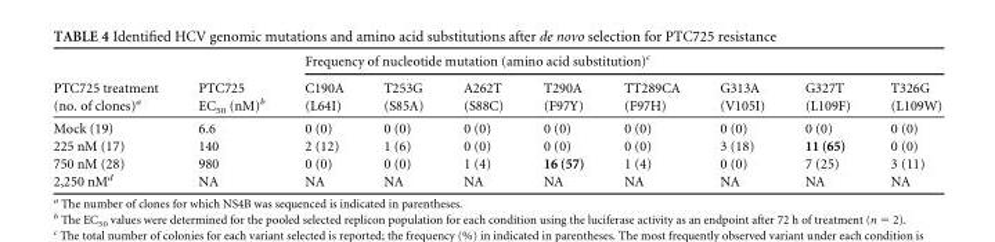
<table><thead><tr><td rowspan="2">PTC725 treatment (no. of clones)<sup>a</sup></td><td rowspan="2">PTC725 EC<sub>50</sub> (nM)<sup>b</sup></td><td colspan="8">Frequency of nucleotide mutation (amino acid substitution)<sup>c</sup></td></tr><tr><td>C190A (L64I)</td><td>T253G (S85A)</td><td>A262T (S88C)</td><td>T290A (F97Y)</td><td>TT289CA (F97H)</td><td>G313A (V105I)</td><td>G327T (L109F)</td><td>T326G (L109W)</td></tr></thead><tbody><tr><td>Mock (19)</td><td>6.6</td><td>0 (0)</td><td>0 (0)</td><td>0 (0)</td><td>0 (0)</td><td>0 (0)</td><td>0 (0)</td><td>0 (0)</td><td>0 (0)</td></tr><tr><td>225 nM (17)</td><td>140</td><td>2 (12)</td><td>1 (6)</td><td>0 (0)</td><td>0 (0)</td><td>0 (0)</td><td>3 (18)</td><td>11 (65)</td><td>0 (0)</td></tr><tr><td>750 nM (28)</td><td>980</td><td>0 (0)</td><td>0 (0)</td><td>1 (4)</td><td>16 (57)</td><td>1 (4)</td><td>0 (0)</td><td>7 (25)</td><td>3 (11)</td></tr><tr><td>2,250 nM<sup>d</sup></td><td>NA</td><td>NA</td><td>NA</td><td>NA</td><td>NA</td><td>NA</td><td>NA</td><td>NA</td><td>NA</td></tr></tbody></table>